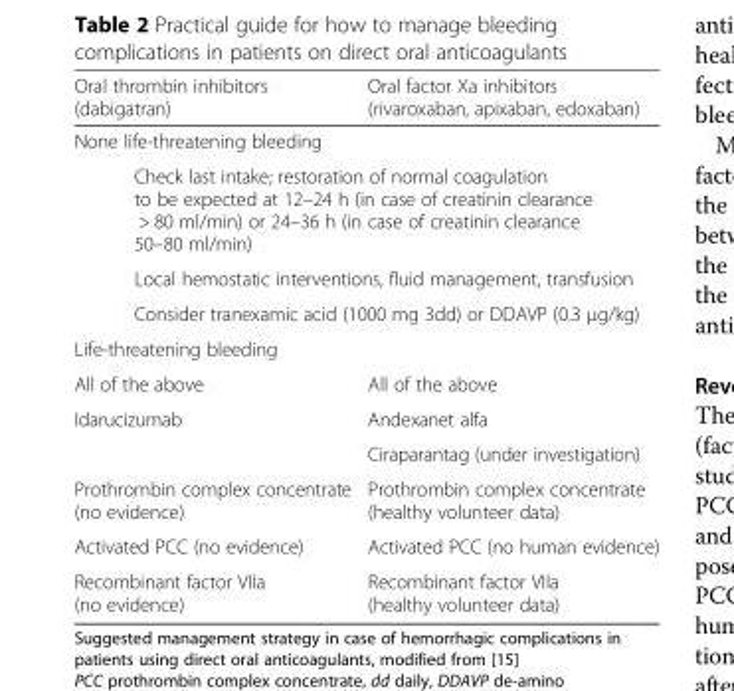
<table><thead><tr><td>Oral thrombin inhibitors (dabigatran)</td><td>Oral factor Xa inhibitors (rivaroxaban, apixaban, edoxaban)</td></tr></thead><tbody><tr><td colspan="2">None life-threatening bleeding</td></tr><tr><td colspan="2">Check last intake; restoration of normal coagulation to be expected at 12–24 h (in case of creatinin clearance &gt; 80 ml/min) or 24–36 h (in case of creatinin clearance 50–80 ml/min)</td></tr><tr><td colspan="2">Local hemostatic interventions, fluid management, transfusion</td></tr><tr><td colspan="2">Consider tranexamic acid (1000 mg 3dd) or DDAVP (0.3 μg/kg)</td></tr><tr><td colspan="2">Life-threatening bleeding</td></tr><tr><td>All of the above</td><td>All of the above</td></tr><tr><td rowspan="2">Idarucizumab</td><td>Andexanet alfa</td></tr><tr><td>Ciraparantag (under investigation)</td></tr><tr><td>Prothrombin complex concentrate (no evidence)</td><td>Prothrombin complex concentrate (healthy volunteer data)</td></tr><tr><td>Activated PCC (no evidence)</td><td>Activated PCC (no human evidence)</td></tr><tr><td>Recombinant factor VIIa (no evidence)</td><td>Recombinant factor VIIa (healthy volunteer data)</td></tr></tbody></table>